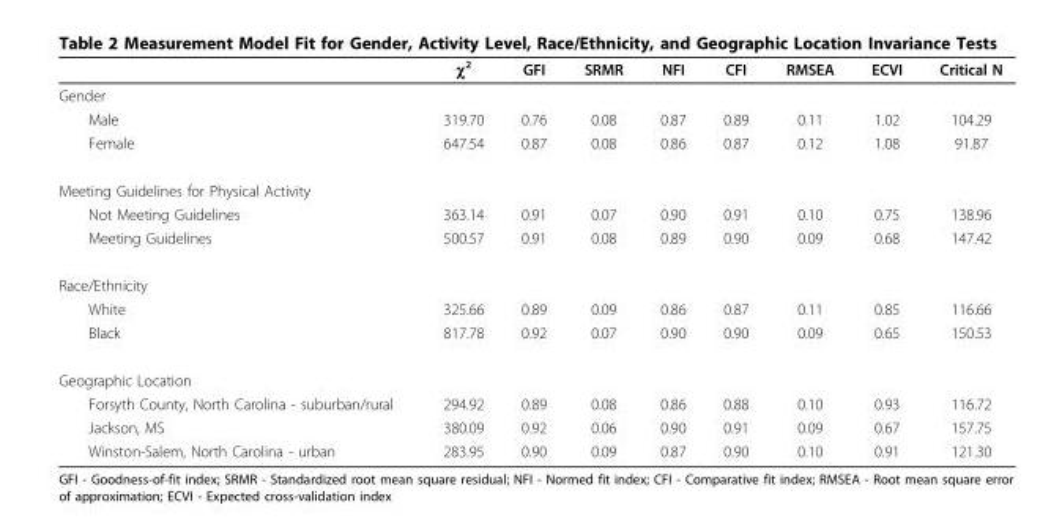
<table><thead><tr><td></td><td>χ<sup>2</sup></td><td>GFI</td><td>SRMR</td><td>NFI</td><td>CFI</td><td>RMSEA</td><td>ECVI</td><td>Critical N</td></tr></thead><tbody><tr><td colspan="9">Gender</td></tr><tr><td>Male</td><td>319.70</td><td>0.76</td><td>0.08</td><td>0.87</td><td>0.89</td><td>0.11</td><td>1.02</td><td>104.29</td></tr><tr><td>Female</td><td>647.54</td><td>0.87</td><td>0.08</td><td>0.86</td><td>0.87</td><td>0.12</td><td>1.08</td><td>91.87</td></tr><tr><td colspan="9">Meeting Guidelines for Physical Activity</td></tr><tr><td>Not Meeting Guidelines</td><td>363.14</td><td>0.91</td><td>0.07</td><td>0.90</td><td>0.91</td><td>0.10</td><td>0.75</td><td>138.96</td></tr><tr><td>Meeting Guidelines</td><td>500.57</td><td>0.91</td><td>0.08</td><td>0.89</td><td>0.90</td><td>0.09</td><td>0.68</td><td>147.42</td></tr><tr><td colspan="9">Race/Ethnicity</td></tr><tr><td>White</td><td>325.66</td><td>0.89</td><td>0.09</td><td>0.86</td><td>0.87</td><td>0.11</td><td>0.85</td><td>116.66</td></tr><tr><td>Black</td><td>817.78</td><td>0.92</td><td>0.07</td><td>0.90</td><td>0.90</td><td>0.09</td><td>0.65</td><td>150.53</td></tr><tr><td colspan="9">Geographic Location</td></tr><tr><td>Forsyth County, North Carolina - suburban/rural</td><td>294.92</td><td>0.89</td><td>0.08</td><td>0.86</td><td>0.88</td><td>0.10</td><td>0.93</td><td>116.72</td></tr><tr><td>Jackson, MS</td><td>380.09</td><td>0.92</td><td>0.06</td><td>0.90</td><td>0.91</td><td>0.09</td><td>0.67</td><td>157.75</td></tr><tr><td>Winston-Salem, North Carolina - urban</td><td>283.95</td><td>0.90</td><td>0.09</td><td>0.87</td><td>0.90</td><td>0.10</td><td>0.91</td><td>121.30</td></tr></tbody></table>